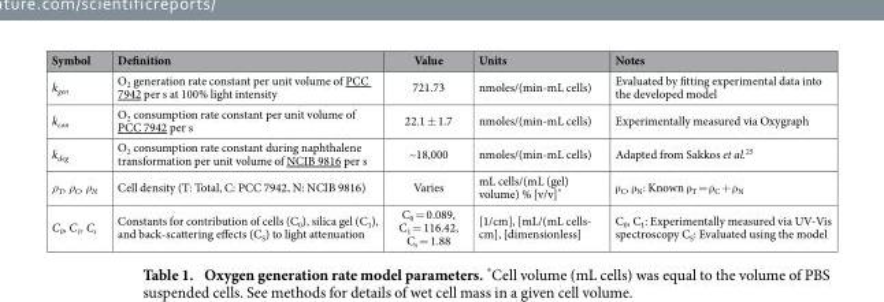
<table><thead><tr><td>Symbol</td><td>Definition</td><td>Value</td><td>Units</td><td>Notes</td></tr></thead><tbody><tr><td>k<sub>gen</sub></td><td>O<sub>2</sub> generation rate constant per unit volume of PCC 7942 per s at 100% light intensity</td><td>721.73</td><td>nmoles/(min-mL cells)</td><td>Evaluated by fitting experimental data into the developed model</td></tr><tr><td>k<sub>con</sub></td><td>O<sub>2</sub> consumption rate constant per unit volume of PCC 7942 per s</td><td>22.1 ± 1.7</td><td>nmoles/(min-mL cells)</td><td>Experimentally measured via Oxygraph</td></tr><tr><td>k<sub>deg</sub></td><td>O<sub>2</sub> consumption rate constant during naphthalene transformation per unit volume of NCIB 9816 per s</td><td>~18,000</td><td>nmoles/(min-mL cells)</td><td>Adapted from Sakkos et al.<sup>25</sup></td></tr><tr><td>ρ<sub>T</sub>, ρ<sub>C</sub>, ρ<sub>N</sub></td><td>Cell density (T: Total, C: PCC 7942, N: NCIB 9816)</td><td>Varies</td><td>mL cells/(mL (gel) volume) % [v/v]*</td><td>ρ <sub>C</sub>, ρ <sub>N</sub>: Known ρ <sub>T</sub> = ρ <sub>C</sub> + ρ <sub>N</sub></td></tr><tr><td>C<sub>0</sub>, C<sub>1</sub>, C<sub>s</sub></td><td>Constants for contribution of cells (C<sub>0</sub>), silica gel (C<sub>1</sub>), and back-scattering effects (C<sub>S</sub>) to light attenuation</td><td>C<sub>0</sub> = 0.089, C<sub>1</sub> = 116.42, C<sub>s</sub> = 1.88</td><td>[1/cm], [mL/(mL cells- cm], [dimensionless]</td><td>C<sub>0</sub>, C<sub>1</sub>: Experimentally measured via UV-Vis spectroscopy C<sub>S</sub>: Evaluated using the model</td></tr></tbody></table>